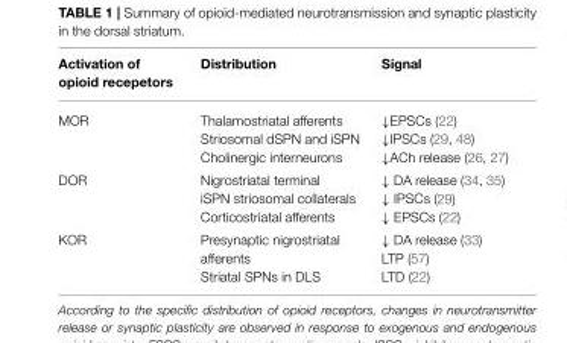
<table><thead><tr><td>Activation of opioid recepetors</td><td>Distribution</td><td>Signal</td></tr></thead><tbody><tr><td>MOR</td><td>Thalamostriatal afferents Striosomal dSPN and iSPN Cholinergic interneurons</td><td>↓EPSCs (22) ↓IPSCs (29, 48) ↓ACh release (26, 27)</td></tr><tr><td>DOR</td><td>Nigrostriatal terminal iSPN striosomal collaterals Corticostriatal afferents</td><td>↓ DA release (34, 35) ↓ IPSCs (29) ↓ EPSCs (22)</td></tr><tr><td>KOR</td><td>Presynaptic nigrostriatal afferents Striatal SPNs in DLS</td><td>↓ DA release (33) LTP (57) LTD (22)</td></tr></tbody></table>